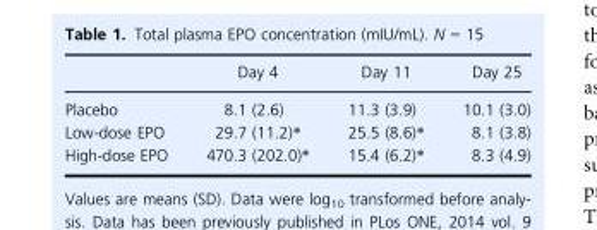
<table><thead><tr><td></td><td>Day 4</td><td>Day 11</td><td>Day 25</td></tr></thead><tbody><tr><td>Placebo</td><td>8.1 (2.6)</td><td>11.3 (3.9)</td><td>10.1 (3.0)</td></tr><tr><td>Low-dose EPO</td><td>29.7 (11.2)*</td><td>25.5 (8.6)*</td><td>8.1 (3.8)</td></tr><tr><td>High-dose EPO</td><td>470.3 (202.0)*</td><td>15.4 (6.2)*</td><td>8.3 (4.9)</td></tr></tbody></table>